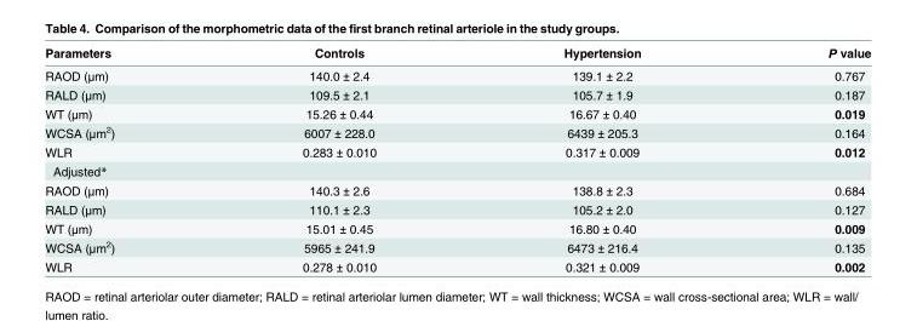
<table><thead><tr><td>Parameters</td><td>Controls</td><td>Hypertension</td><td>P value</td></tr></thead><tbody><tr><td>RAOD (μm)</td><td>140.0 ± 2.4</td><td>139.1 ± 2.2</td><td>0.767</td></tr><tr><td>RALD (μm)</td><td>109.5 ± 2.1</td><td>105.7 ± 1.9</td><td>0.187</td></tr><tr><td>WT (μm)</td><td>15.26 ± 0.44</td><td>16.67 ± 0.40</td><td>0.019</td></tr><tr><td>WCSA (μm<sup>2</sup>)</td><td>6007 ± 228.0</td><td>6439 ± 205.3</td><td>0.164</td></tr><tr><td>WLR</td><td>0.283 ± 0.010</td><td>0.317 ± 0.009</td><td>0.012</td></tr><tr><td colspan="4">Adjusted*</td></tr><tr><td>RAOD (μm)</td><td>140.3 ± 2.6</td><td>138.8 ± 2.3</td><td>0.684</td></tr><tr><td>RALD (μm)</td><td>110.1 ± 2.3</td><td>105.2 ± 2.0</td><td>0.127</td></tr><tr><td>WT (μm)</td><td>15.01 ± 0.45</td><td>16.80 ± 0.40</td><td>0.009</td></tr><tr><td>WCSA (μm<sup>2</sup>)</td><td>5965 ± 241.9</td><td>6473 ± 216.4</td><td>0.135</td></tr><tr><td>WLR</td><td>0.278 ± 0.010</td><td>0.321 ± 0.009</td><td>0.002</td></tr></tbody></table>